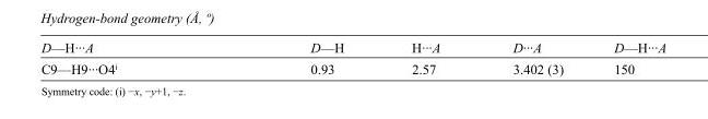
<table><tbody><tr><td>D—H···A</td><td>D—H</td><td>H···A</td><td>D···A</td><td>D—H···A</td></tr><tr><td>C9—H9···O4<sup>i</sup></td><td>0.93</td><td>2.57</td><td>3.402 (3)</td><td>150</td></tr></tbody></table>